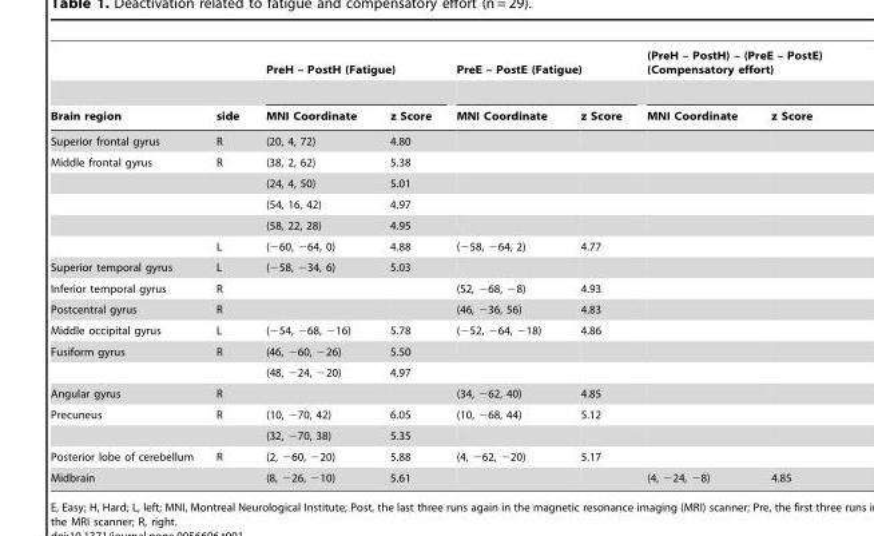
<table><thead><tr><td rowspan="2">Brain region</td><td rowspan="2">side</td><td colspan="2">PreH – PostH (Fatigue)</td><td colspan="2">PreE – PostE (Fatigue)</td><td colspan="2">(PreH – PostH) – (PreE – PostE) (Compensatory effort)</td></tr><tr><td>MNI Coordinate</td><td>z Score</td><td>MNI Coordinate</td><td>z Score</td><td>MNI Coordinate</td><td>z Score</td></tr></thead><tbody><tr><td>Superior frontal gyrus</td><td>R</td><td>(20, 4, 72)</td><td>4.80</td><td></td><td></td><td></td><td></td></tr><tr><td rowspan="5">Middle frontal gyrus</td><td>R</td><td>(38, 2, 62)</td><td>5.38</td><td></td><td></td><td></td><td></td></tr><tr><td></td><td>(24, 4, 50)</td><td>5.01</td><td></td><td></td><td></td><td></td></tr><tr><td></td><td>(54, 16, 42)</td><td>4.97</td><td></td><td></td><td></td><td></td></tr><tr><td></td><td>(58, 22, 28)</td><td>4.95</td><td></td><td></td><td></td><td></td></tr><tr><td>L</td><td>(−60, −64, 0)</td><td>4.88</td><td>(−58, −64, 2)</td><td>4.77</td><td></td><td></td></tr><tr><td>Superior temporal gyrus</td><td>L</td><td>(−58, −34, 6)</td><td>5.03</td><td></td><td></td><td></td><td></td></tr><tr><td>Inferior temporal gyrus</td><td>R</td><td></td><td></td><td>(52, −68, −8)</td><td>4.93</td><td></td><td></td></tr><tr><td>Postcentral gyrus</td><td>R</td><td></td><td></td><td>(46, −36, 56)</td><td>4.83</td><td></td><td></td></tr><tr><td>Middle occipital gyrus</td><td>L</td><td>(−54, −68, −16)</td><td>5.78</td><td>(−52, −64, −18)</td><td>4.86</td><td></td><td></td></tr><tr><td rowspan="2">Fusiform gyrus</td><td>R</td><td>(46, −60, −26)</td><td>5.50</td><td></td><td></td><td></td><td></td></tr><tr><td></td><td>(48, −24, −20)</td><td>4.97</td><td></td><td></td><td></td><td></td></tr><tr><td>Angular gyrus</td><td>R</td><td></td><td></td><td>(34, −62, 40)</td><td>4.85</td><td></td><td></td></tr><tr><td rowspan="2">Precuneus</td><td>R</td><td>(10, −70, 42)</td><td>6.05</td><td>(10, −68, 44)</td><td>5.12</td><td></td><td></td></tr><tr><td></td><td>(32, −70, 38)</td><td>5.35</td><td></td><td></td><td></td><td></td></tr><tr><td>Posterior lobe of cerebellum</td><td>R</td><td>(2, −60, −20)</td><td>5.88</td><td>(4, −62, −20)</td><td>5.17</td><td></td><td></td></tr><tr><td>Midbrain</td><td></td><td>(8, −26, −10)</td><td>5.61</td><td></td><td></td><td>(4, −24, −8)</td><td>4.85</td></tr></tbody></table>